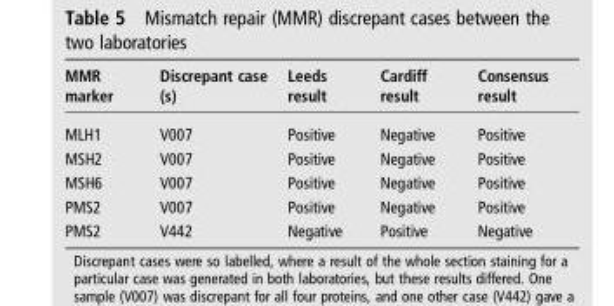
<table><thead><tr><td>MMR marker</td><td>Discrepant case (s)</td><td>Leeds result</td><td>Cardiff result</td><td>Consensus result</td></tr></thead><tbody><tr><td>MLH1</td><td>V007</td><td>Positive</td><td>Negative</td><td>Positive</td></tr><tr><td>MSH2</td><td>V007</td><td>Positive</td><td>Negative</td><td>Positive</td></tr><tr><td>MSH6</td><td>V007</td><td>Positive</td><td>Negative</td><td>Positive</td></tr><tr><td>PMS2</td><td>V007</td><td>Positive</td><td>Negative</td><td>Positive</td></tr><tr><td>PMS2</td><td>V442</td><td>Negative</td><td>Positive</td><td>Negative</td></tr></tbody></table>